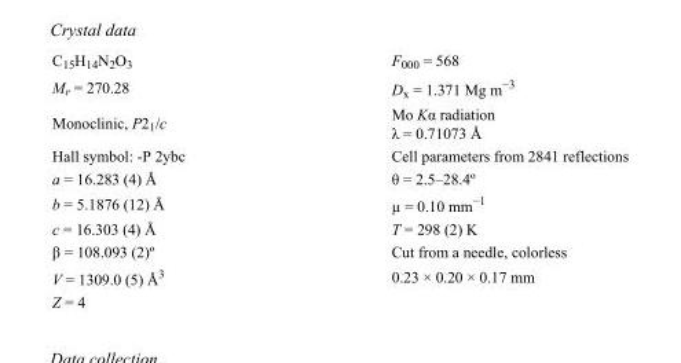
<table><tbody><tr><td>C<sub>15</sub>H<sub>14</sub>N<sub>2</sub>O<sub>3</sub></td><td>F<sub>000</sub> = 568</td></tr><tr><td>M<sub>r</sub> = 270.28</td><td>D<sub>x</sub> = 1.371 Mg m<sup>−3</sup></td></tr><tr><td>Monoclinic, P2<sub>1</sub>/c</td><td>Mo Kα radiation λ = 0.71073 Å</td></tr><tr><td>Hall symbol: -P 2ybc</td><td>Cell parameters from 2841 reflections</td></tr><tr><td>a = 16.283 (4) Å</td><td>θ = 2.5–28.4º</td></tr><tr><td>b = 5.1876 (12) Å</td><td>µ = 0.10 mm<sup>−1</sup></td></tr><tr><td>c = 16.303 (4) Å</td><td>T = 298 (2) K</td></tr><tr><td>β = 108.093 (2)º</td><td>Cut from a needle, colorless</td></tr><tr><td>V = 1309.0 (5) Å<sup>3</sup></td><td>0.23 × 0.20 × 0.17 mm</td></tr><tr><td>Z = 4</td><td></td></tr></tbody></table>